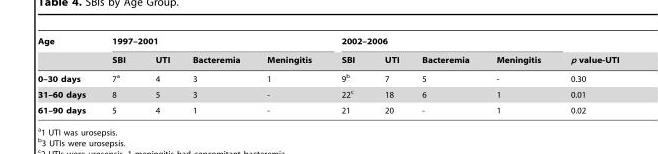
<table><thead><tr><td rowspan="2">Age</td><td colspan="4">1997–2001</td><td colspan="4">2002–2006</td><td rowspan="2">p value-UTI</td></tr><tr><td>SBI</td><td>UTI</td><td>Bacteremia</td><td>Meningitis</td><td>SBI</td><td>UTI</td><td>Bacteremia</td><td>Meningitis</td></tr></thead><tbody><tr><td>0–30 days</td><td>7<sup>a</sup></td><td>4</td><td>3</td><td>1</td><td>9<sup>b</sup></td><td>7</td><td>5</td><td>-</td><td>0.30</td></tr><tr><td>31–60 days</td><td>8</td><td>5</td><td>3</td><td>-</td><td>22<sup>c</sup></td><td>18</td><td>6</td><td>1</td><td>0.01</td></tr><tr><td>61–90 days</td><td>5</td><td>4</td><td>1</td><td>-</td><td>21</td><td>20</td><td>-</td><td>1</td><td>0.02</td></tr></tbody></table>